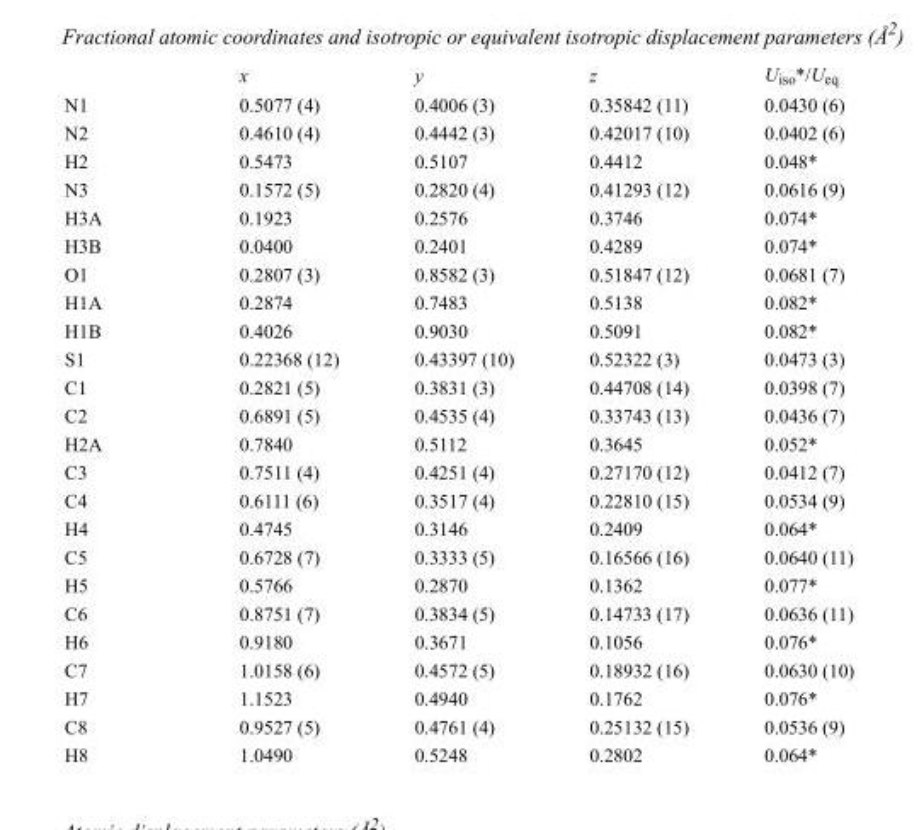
<table><thead><tr><td></td><td>x</td><td>y</td><td>z</td><td>U<sub>iso</sub>*/U<sub>eq</sub></td></tr></thead><tbody><tr><td>N1</td><td>0.5077 (4)</td><td>0.4006 (3)</td><td>0.35842 (11)</td><td>0.0430 (6)</td></tr><tr><td>N2</td><td>0.4610 (4)</td><td>0.4442 (3)</td><td>0.42017 (10)</td><td>0.0402 (6)</td></tr><tr><td>H2</td><td>0.5473</td><td>0.5107</td><td>0.4412</td><td>0.048*</td></tr><tr><td>N3</td><td>0.1572 (5)</td><td>0.2820 (4)</td><td>0.41293 (12)</td><td>0.0616 (9)</td></tr><tr><td>H3A</td><td>0.1923</td><td>0.2576</td><td>0.3746</td><td>0.074*</td></tr><tr><td>H3B</td><td>0.0400</td><td>0.2401</td><td>0.4289</td><td>0.074*</td></tr><tr><td>O1</td><td>0.2807 (3)</td><td>0.8582 (3)</td><td>0.51847 (12)</td><td>0.0681 (7)</td></tr><tr><td>H1A</td><td>0.2874</td><td>0.7483</td><td>0.5138</td><td>0.082*</td></tr><tr><td>H1B</td><td>0.4026</td><td>0.9030</td><td>0.5091</td><td>0.082*</td></tr><tr><td>S1</td><td>0.22368 (12)</td><td>0.43397 (10)</td><td>0.52322 (3)</td><td>0.0473 (3)</td></tr><tr><td>C1</td><td>0.2821 (5)</td><td>0.3831 (3)</td><td>0.44708 (14)</td><td>0.0398 (7)</td></tr><tr><td>C2</td><td>0.6891 (5)</td><td>0.4535 (4)</td><td>0.33743 (13)</td><td>0.0436 (7)</td></tr><tr><td>H2A</td><td>0.7840</td><td>0.5112</td><td>0.3645</td><td>0.052*</td></tr><tr><td>C3</td><td>0.7511 (4)</td><td>0.4251 (4)</td><td>0.27170 (12)</td><td>0.0412 (7)</td></tr><tr><td>C4</td><td>0.6111 (6)</td><td>0.3517 (4)</td><td>0.22810 (15)</td><td>0.0534 (9)</td></tr><tr><td>H4</td><td>0.4745</td><td>0.3146</td><td>0.2409</td><td>0.064*</td></tr><tr><td>C5</td><td>0.6728 (7)</td><td>0.3333 (5)</td><td>0.16566 (16)</td><td>0.0640 (11)</td></tr><tr><td>H5</td><td>0.5766</td><td>0.2870</td><td>0.1362</td><td>0.077*</td></tr><tr><td>C6</td><td>0.8751 (7)</td><td>0.3834 (5)</td><td>0.14733 (17)</td><td>0.0636 (11)</td></tr><tr><td>H6</td><td>0.9180</td><td>0.3671</td><td>0.1056</td><td>0.076*</td></tr><tr><td>C7</td><td>1.0158 (6)</td><td>0.4572 (5)</td><td>0.18932 (16)</td><td>0.0630 (10)</td></tr><tr><td>H7</td><td>1.1523</td><td>0.4940</td><td>0.1762</td><td>0.076*</td></tr><tr><td>C8</td><td>0.9527 (5)</td><td>0.4761 (4)</td><td>0.25132 (15)</td><td>0.0536 (9)</td></tr><tr><td>H8</td><td>1.0490</td><td>0.5248</td><td>0.2802</td><td>0.064*</td></tr></tbody></table>